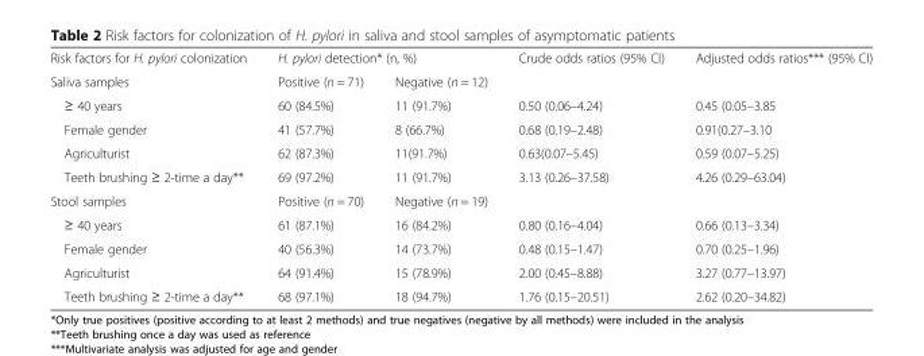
<table><tbody><tr><td>Risk factors for H. pylori colonization</td><td colspan="2">H. pylori detection* (n, %)</td><td rowspan="2">Crude odds ratios (95% CI)</td><td rowspan="2">Adjusted odds ratios*** (95% CI)</td></tr><tr><td>Saliva samples</td><td>Positive (n = 71)</td><td>Negative (n = 12)</td></tr><tr><td>≥ 40 years</td><td>60 (84.5%)</td><td>11 (91.7%)</td><td>0.50 (0.06–4.24)</td><td>0.45 (0.05–3.85</td></tr><tr><td>Female gender</td><td>41 (57.7%)</td><td>8 (66.7%)</td><td>0.68 (0.19–2.48)</td><td>0.91(0.27–3.10</td></tr><tr><td>Agriculturist</td><td>62 (87.3%)</td><td>11(91.7%)</td><td>0.63(0.07–5.45)</td><td>0.59 (0.07–5.25)</td></tr><tr><td>Teeth brushing ≥ 2-time a day**</td><td>69 (97.2%)</td><td>11 (91.7%)</td><td>3.13 (0.26–37.58)</td><td>4.26 (0.29–63.04)</td></tr><tr><td>Stool samples</td><td>Positive (n = 70)</td><td>Negative (n = 19)</td><td></td><td></td></tr><tr><td>≥ 40 years</td><td>61 (87.1%)</td><td>16 (84.2%)</td><td>0.80 (0.16–4.04)</td><td>0.66 (0.13–3.34)</td></tr><tr><td>Female gender</td><td>40 (56.3%)</td><td>14 (73.7%)</td><td>0.48 (0.15–1.47)</td><td>0.70 (0.25–1.96)</td></tr><tr><td>Agriculturist</td><td>64 (91.4%)</td><td>15 (78.9%)</td><td>2.00 (0.45–8.88)</td><td>3.27 (0.77–13.97)</td></tr><tr><td>Teeth brushing ≥ 2-time a day**</td><td>68 (97.1%)</td><td>18 (94.7%)</td><td>1.76 (0.15–20.51)</td><td>2.62 (0.20–34.82)</td></tr></tbody></table>